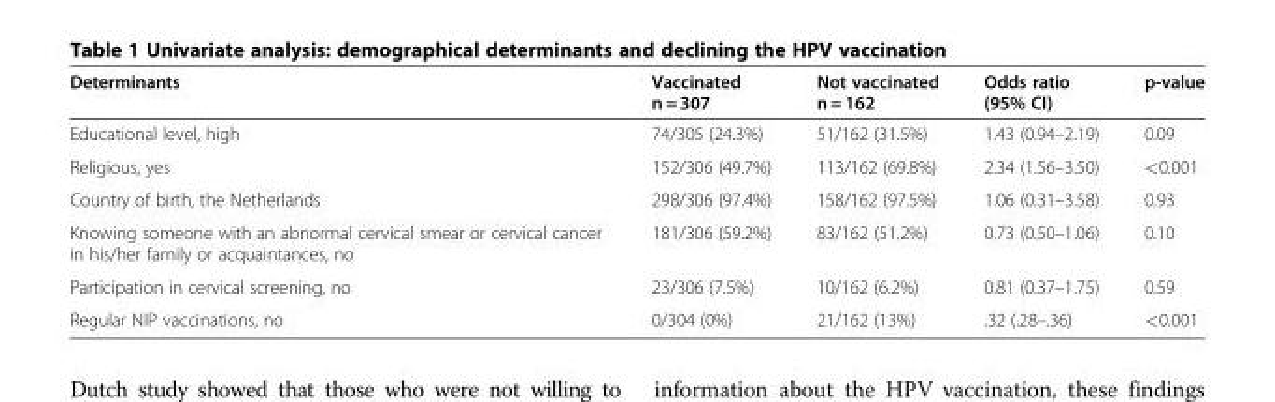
<table><thead><tr><td>Determinants</td><td>Vaccinated n = 307</td><td>Not vaccinated n = 162</td><td>Odds ratio (95% CI)</td><td>p-value</td></tr></thead><tbody><tr><td>Educational level, high</td><td>74/305 (24.3%)</td><td>51/162 (31.5%)</td><td>1.43 (0.94–2.19)</td><td>0.09</td></tr><tr><td>Religious, yes</td><td>152/306 (49.7%)</td><td>113/162 (69.8%)</td><td>2.34 (1.56–3.50)</td><td>&lt;0.001</td></tr><tr><td>Country of birth, the Netherlands</td><td>298/306 (97.4%)</td><td>158/162 (97.5%)</td><td>1.06 (0.31–3.58)</td><td>0.93</td></tr><tr><td>Knowing someone with an abnormal cervical smear or cervical cancer in his/her family or acquaintances, no</td><td>181/306 (59.2%)</td><td>83/162 (51.2%)</td><td>0.73 (0.50–1.06)</td><td>0.10</td></tr><tr><td>Participation in cervical screening, no</td><td>23/306 (7.5%)</td><td>10/162 (6.2%)</td><td>0.81 (0.37–1.75)</td><td>0.59</td></tr><tr><td>Regular NIP vaccinations, no</td><td>0/304 (0%)</td><td>21/162 (13%)</td><td>.32 (.28–.36)</td><td>&lt;0.001</td></tr></tbody></table>